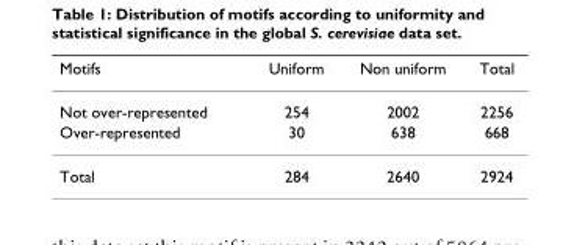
<table><thead><tr><td>Motifs</td><td>Uniform</td><td>Non uniform</td><td>Total</td></tr></thead><tbody><tr><td>Not over-represented</td><td>254</td><td>2002</td><td>2256</td></tr><tr><td>Over-represented</td><td>30</td><td>638</td><td>668</td></tr><tr><td>Total</td><td>284</td><td>2640</td><td>2924</td></tr></tbody></table>